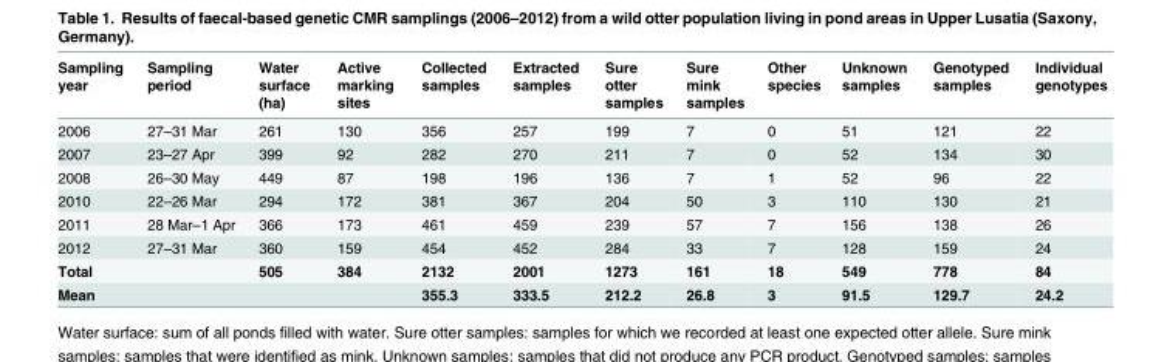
<table><thead><tr><td>Sampling year</td><td>Sampling period</td><td>Water surface (ha)</td><td>Active marking sites</td><td>Collected samples</td><td>Extracted samples</td><td>Sure otter samples</td><td>Sure mink samples</td><td>Other species</td><td>Unknown samples</td><td>Genotyped samples</td><td>Individual genotypes</td></tr></thead><tbody><tr><td>2006</td><td>27–31 Mar</td><td>261</td><td>130</td><td>356</td><td>257</td><td>199</td><td>7</td><td>0</td><td>51</td><td>121</td><td>22</td></tr><tr><td>2007</td><td>23–27 Apr</td><td>399</td><td>92</td><td>282</td><td>270</td><td>211</td><td>7</td><td>0</td><td>52</td><td>134</td><td>30</td></tr><tr><td>2008</td><td>26–30 May</td><td>449</td><td>87</td><td>198</td><td>196</td><td>136</td><td>7</td><td>1</td><td>52</td><td>96</td><td>22</td></tr><tr><td>2010</td><td>22–26 Mar</td><td>294</td><td>172</td><td>381</td><td>367</td><td>204</td><td>50</td><td>3</td><td>110</td><td>130</td><td>21</td></tr><tr><td>2011</td><td>28 Mar–1 Apr</td><td>366</td><td>173</td><td>461</td><td>459</td><td>239</td><td>57</td><td>7</td><td>156</td><td>138</td><td>26</td></tr><tr><td>2012</td><td>27–31 Mar</td><td>360</td><td>159</td><td>454</td><td>452</td><td>284</td><td>33</td><td>7</td><td>128</td><td>159</td><td>24</td></tr><tr><td>Total</td><td></td><td>505</td><td>384</td><td>2132</td><td>2001</td><td>1273</td><td>161</td><td>18</td><td>549</td><td>778</td><td>84</td></tr><tr><td>Mean</td><td></td><td></td><td></td><td>355.3</td><td>333.5</td><td>212.2</td><td>26.8</td><td>3</td><td>91.5</td><td>129.7</td><td>24.2</td></tr></tbody></table>